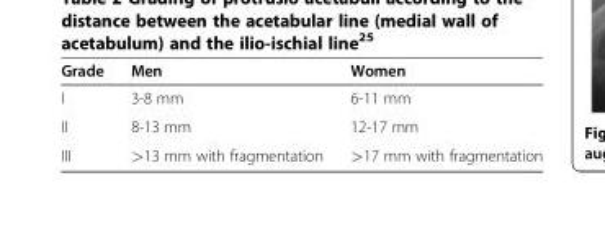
<table><thead><tr><td>Grade</td><td>Men</td><td>Women</td></tr></thead><tbody><tr><td>I</td><td>3-8 mm</td><td>6-11 mm</td></tr><tr><td>II</td><td>8-13 mm</td><td>12-17 mm</td></tr><tr><td>III</td><td>&gt;13 mm with fragmentation</td><td>&gt;17 mm with fragmentation</td></tr></tbody></table>